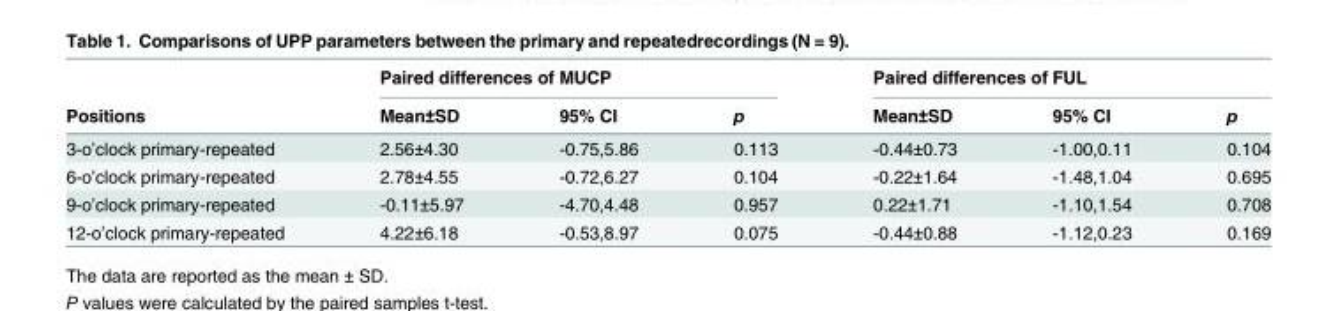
<table><thead><tr><td rowspan="2">Positions</td><td colspan="3">Paired differences of MUCP</td><td colspan="3">Paired differences of FUL</td></tr><tr><td>Mean±SD</td><td>95% CI</td><td>p</td><td>Mean±SD</td><td>95% CI</td><td>p</td></tr></thead><tbody><tr><td>3-o’clock primary-repeated</td><td>2.56±4.30</td><td>-0.75,5.86</td><td>0.113</td><td>-0.44±0.73</td><td>-1.00,0.11</td><td>0.104</td></tr><tr><td>6-o’clock primary-repeated</td><td>2.78±4.55</td><td>-0.72,6.27</td><td>0.104</td><td>-0.22±1.64</td><td>-1.48,1.04</td><td>0.695</td></tr><tr><td>9-o’clock primary-repeated</td><td>-0.11±5.97</td><td>-4.70,4.48</td><td>0.957</td><td>0.22±1.71</td><td>-1.10,1.54</td><td>0.708</td></tr><tr><td>12-o’clock primary-repeated</td><td>4.22±6.18</td><td>-0.53,8.97</td><td>0.075</td><td>-0.44±0.88</td><td>-1.12,0.23</td><td>0.169</td></tr></tbody></table>